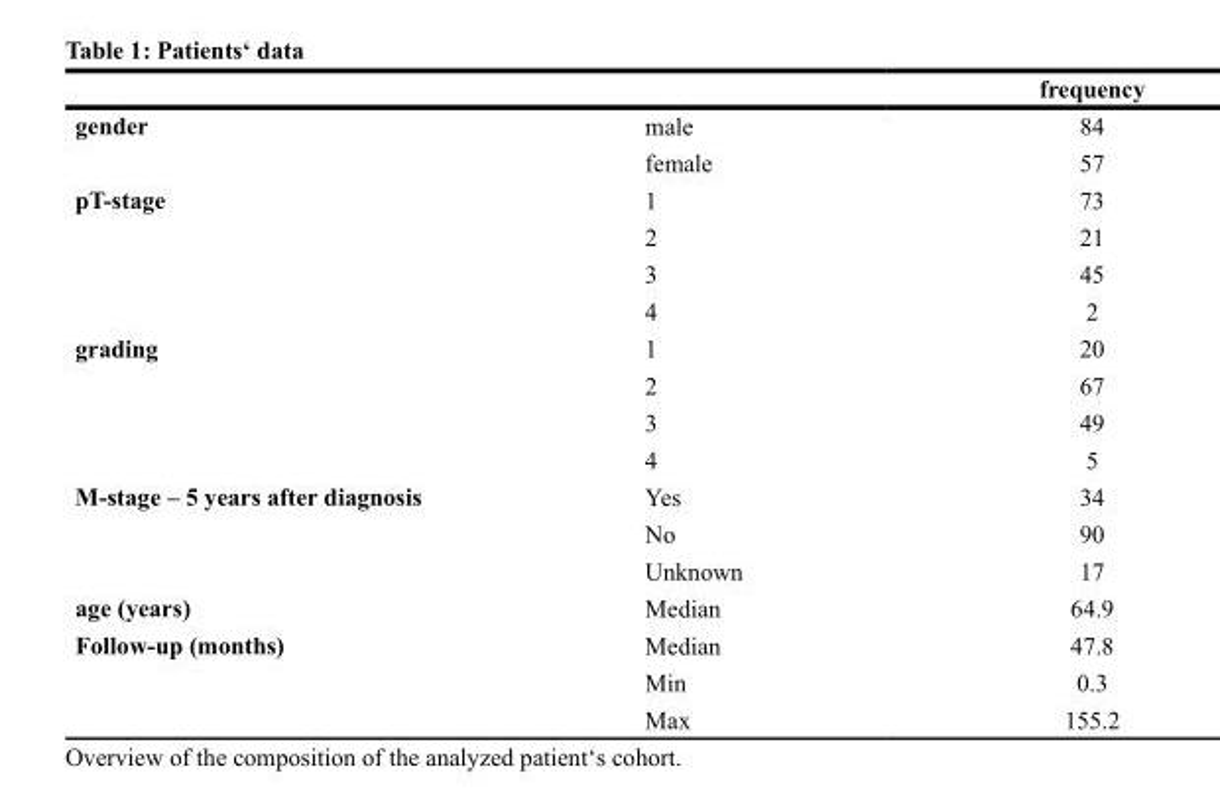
<table><thead><tr><td></td><td></td><td>frequency</td></tr></thead><tbody><tr><td rowspan="2">gender</td><td>male</td><td>84</td></tr><tr><td>female</td><td>57</td></tr><tr><td rowspan="4">pT-stage</td><td>1</td><td>73</td></tr><tr><td>2</td><td>21</td></tr><tr><td>3</td><td>45</td></tr><tr><td>4</td><td>2</td></tr><tr><td rowspan="4">grading</td><td>1</td><td>20</td></tr><tr><td>2</td><td>67</td></tr><tr><td>3</td><td>49</td></tr><tr><td>4</td><td>5</td></tr><tr><td rowspan="3">M-stage – 5 years after diagnosis</td><td>Yes</td><td>34</td></tr><tr><td>No</td><td>90</td></tr><tr><td>Unknown</td><td>17</td></tr><tr><td>age (years)</td><td>Median</td><td>64.9</td></tr><tr><td rowspan="3">Follow-up (months)</td><td>Median</td><td>47.8</td></tr><tr><td>Min</td><td>0.3</td></tr><tr><td>Max</td><td>155.2</td></tr></tbody></table>